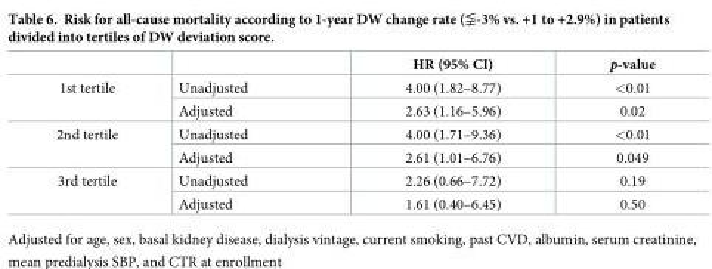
<table><thead><tr><td></td><td></td><td>HR (95% CI)</td><td>p-value</td></tr></thead><tbody><tr><td rowspan="2">1st tertile</td><td>Unadjusted</td><td>4.00 (1.82–8.77)</td><td>&lt;0.01</td></tr><tr><td>Adjusted</td><td>2.63 (1.16–5.96)</td><td>0.02</td></tr><tr><td rowspan="2">2nd tertile</td><td>Unadjusted</td><td>4.00 (1.71–9.36)</td><td>&lt;0.01</td></tr><tr><td>Adjusted</td><td>2.61 (1.01–6.76)</td><td>0.049</td></tr><tr><td rowspan="2">3rd tertile</td><td>Unadjusted</td><td>2.26 (0.66–7.72)</td><td>0.19</td></tr><tr><td>Adjusted</td><td>1.61 (0.40–6.45)</td><td>0.50</td></tr></tbody></table>